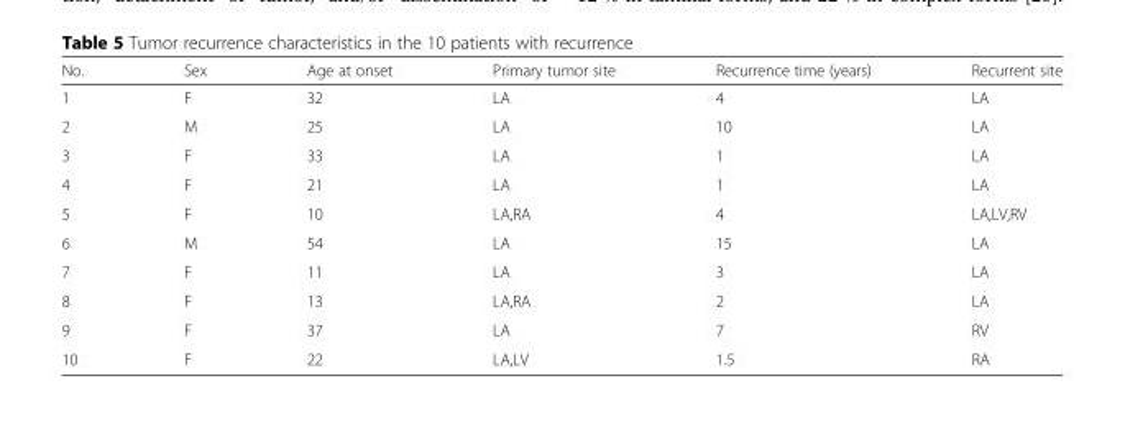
<table><thead><tr><td>No.</td><td>Sex</td><td>Age at onset</td><td>Primary tumor site</td><td>Recurrence time (years)</td><td>Recurrent site</td></tr></thead><tbody><tr><td>1</td><td>F</td><td>32</td><td>LA</td><td>4</td><td>LA</td></tr><tr><td>2</td><td>M</td><td>25</td><td>LA</td><td>10</td><td>LA</td></tr><tr><td>3</td><td>F</td><td>33</td><td>LA</td><td>1</td><td>LA</td></tr><tr><td>4</td><td>F</td><td>21</td><td>LA</td><td>1</td><td>LA</td></tr><tr><td>5</td><td>F</td><td>10</td><td>LA,RA</td><td>4</td><td>LA,LV,RV</td></tr><tr><td>6</td><td>M</td><td>54</td><td>LA</td><td>15</td><td>LA</td></tr><tr><td>7</td><td>F</td><td>11</td><td>LA</td><td>3</td><td>LA</td></tr><tr><td>8</td><td>F</td><td>13</td><td>LA,RA</td><td>2</td><td>LA</td></tr><tr><td>9</td><td>F</td><td>37</td><td>LA</td><td>7</td><td>RV</td></tr><tr><td>10</td><td>F</td><td>22</td><td>LA,LV</td><td>1.5</td><td>RA</td></tr></tbody></table>